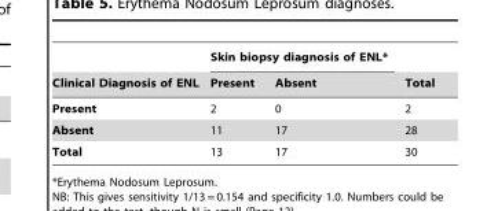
<table><thead><tr><td rowspan="2">Clinical Diagnosis of ENL</td><td colspan="2">Skin biopsy diagnosis of ENL*</td><td rowspan="2">Total</td></tr><tr><td>Present</td><td>Absent</td></tr></thead><tbody><tr><td>Present</td><td>2</td><td>0</td><td>2</td></tr><tr><td>Absent</td><td>11</td><td>17</td><td>28</td></tr><tr><td>Total</td><td>13</td><td>17</td><td>30</td></tr></tbody></table>